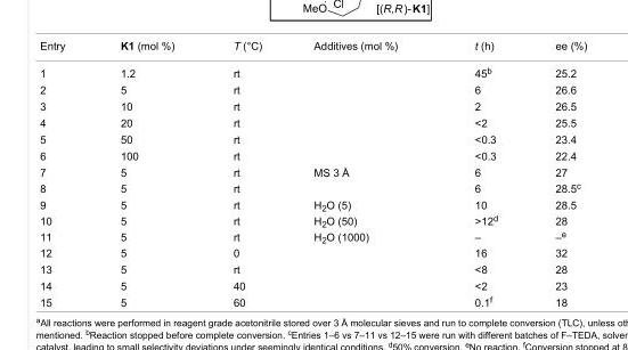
<table><tbody><tr><td>Entry</td><td>K1 (mol %)</td><td>T (°C)</td><td>Additives (mol %)</td><td>t (h)</td><td>ee (%)</td></tr><tr><td>1</td><td>1.2</td><td>rt</td><td></td><td>45<sup>b</sup></td><td>25.2</td></tr><tr><td>2</td><td>5</td><td>rt</td><td></td><td>6</td><td>26.6</td></tr><tr><td>3</td><td>10</td><td>rt</td><td></td><td>2</td><td>26.5</td></tr><tr><td>4</td><td>20</td><td>rt</td><td></td><td>&lt;2</td><td>25.5</td></tr><tr><td>5</td><td>50</td><td>rt</td><td></td><td>&lt;0.3</td><td>23.4</td></tr><tr><td>6</td><td>100</td><td>rt</td><td></td><td>&lt;0.3</td><td>22.4</td></tr><tr><td>7</td><td>5</td><td>rt</td><td>MS 3 Å</td><td>6</td><td>27</td></tr><tr><td>8</td><td>5</td><td>rt</td><td></td><td>6</td><td>28.5<sup>c</sup></td></tr><tr><td>9</td><td>5</td><td>rt</td><td>H<sub>2</sub>O (5)</td><td>10</td><td>28.5</td></tr><tr><td>10</td><td>5</td><td>rt</td><td>H<sub>2</sub>O (50)</td><td>&gt;12<sup>d</sup></td><td>28</td></tr><tr><td>11</td><td>5</td><td>rt</td><td>H<sub>2</sub>O (1000)</td><td>–</td><td>–<sup>e</sup></td></tr><tr><td>12</td><td>5</td><td>0</td><td></td><td>16</td><td>32</td></tr><tr><td>13</td><td>5</td><td>rt</td><td></td><td>&lt;8</td><td>28</td></tr><tr><td>14</td><td>5</td><td>40</td><td></td><td>&lt;2</td><td>23</td></tr><tr><td>15</td><td>5</td><td>60</td><td></td><td>0.1<sup>f</sup></td><td>18</td></tr></tbody></table>